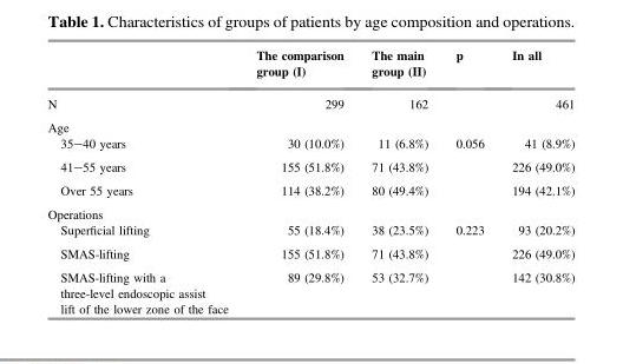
<table><thead><tr><td></td><td>The comparison group (I)</td><td>The main group (II)</td><td>p</td><td>In all</td></tr></thead><tbody><tr><td>N</td><td>299</td><td>162</td><td></td><td>461</td></tr><tr><td colspan="5">Age</td></tr><tr><td>35–40 years</td><td>30 (10.0%)</td><td>11 (6.8%)</td><td rowspan="3">0.056</td><td>41 (8.9%)</td></tr><tr><td>41–55 years</td><td>155 (51.8%)</td><td>71 (43.8%)</td><td>226 (49.0%)</td></tr><tr><td>Over 55 years</td><td>114 (38.2%)</td><td>80 (49.4%)</td><td>194 (42.1%)</td></tr><tr><td colspan="5">Operations</td></tr><tr><td>Superficial lifting</td><td>55 (18.4%)</td><td>38 (23.5%)</td><td rowspan="3">0.223</td><td>93 (20.2%)</td></tr><tr><td>SMAS-lifting</td><td>155 (51.8%)</td><td>71 (43.8%)</td><td>226 (49.0%)</td></tr><tr><td>SMAS-lifting with a three-level endoscopic assist lift of the lower zone of the face</td><td>89 (29.8%)</td><td>53 (32.7%)</td><td>142 (30.8%)</td></tr></tbody></table>